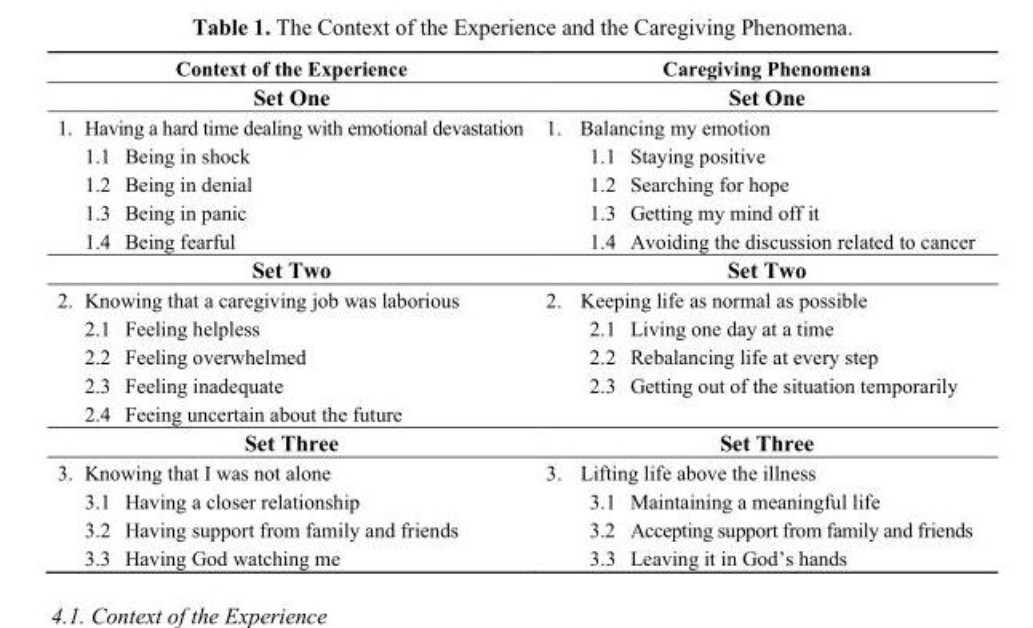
<table><thead><tr><td>Context of the Experience</td><td>Caregiving Phenomena</td></tr></thead><tbody><tr><td>Set One</td><td>Set One</td></tr><tr><td>1. Having a hard time dealing with emotional devastation</td><td>1. Balancing my emotion</td></tr><tr><td>1.1 Being in shock</td><td>1.1 Staying positive</td></tr><tr><td>1.2 Being in denial</td><td>1.2 Searching for hope</td></tr><tr><td>1.3 Being in panic</td><td>1.3 Getting my mind off it</td></tr><tr><td>1.4 Being fearful</td><td>1.4 Avoiding the discussion related to cancer</td></tr><tr><td>Set Two</td><td>Set Two</td></tr><tr><td>2. Knowing that a caregiving job was laborious</td><td>2. Keeping life as normal as possible</td></tr><tr><td>2.1 Feeling helpless</td><td>2.1 Living one day at a time</td></tr><tr><td>2.2 Feeling overwhelmed</td><td>2.2 Rebalancing life at every step</td></tr><tr><td>2.3 Feeling inadequate</td><td>2.3 Getting out of the situation temporarily</td></tr><tr><td colspan="2">2.4 Feeing uncertain about the future</td></tr><tr><td>Set Three</td><td>Set Three</td></tr><tr><td>3. Knowing that I was not alone</td><td>3. Lifting life above the illness</td></tr><tr><td>3.1 Having a closer relationship</td><td>3.1 Maintaining a meaningful life</td></tr><tr><td>3.2 Having support from family and friends</td><td>3.2 Accepting support from family and friends</td></tr><tr><td>3.3 Having God watching me</td><td>3.3 Leaving it in God’s hands</td></tr></tbody></table>